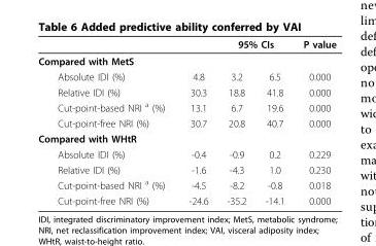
<table><thead><tr><td rowspan="2">Compared with MetS</td><td rowspan="2"></td><td colspan="2">95% CIs</td><td rowspan="2">P value</td></tr><tr><td></td><td></td></tr></thead><tbody><tr><td>Absolute IDI (%)</td><td>4.8</td><td>3.2</td><td>6.5</td><td>0.000</td></tr><tr><td>Relative IDI (%)</td><td>30.3</td><td>18.8</td><td>41.8</td><td>0.000</td></tr><tr><td>Cut-point-based NRI <sup>a</sup> (%)</td><td>13.1</td><td>6.7</td><td>19.6</td><td>0.000</td></tr><tr><td>Cut-point-free NRI (%)</td><td>30.7</td><td>20.8</td><td>40.7</td><td>0.000</td></tr><tr><td colspan="5">Compared with WHtR</td></tr><tr><td>Absolute IDI (%)</td><td>-0.4</td><td>-0.9</td><td>0.2</td><td>0.229</td></tr><tr><td>Relative IDI (%)</td><td>-1.6</td><td>-4.3</td><td>1.0</td><td>0.230</td></tr><tr><td>Cut-point-based NRI <sup>a</sup> (%)</td><td>-4.5</td><td>-8.2</td><td>-0.8</td><td>0.018</td></tr><tr><td>Cut-point-free NRI (%)</td><td>-24.6</td><td>-35.2</td><td>-14.1</td><td>0.000</td></tr></tbody></table>